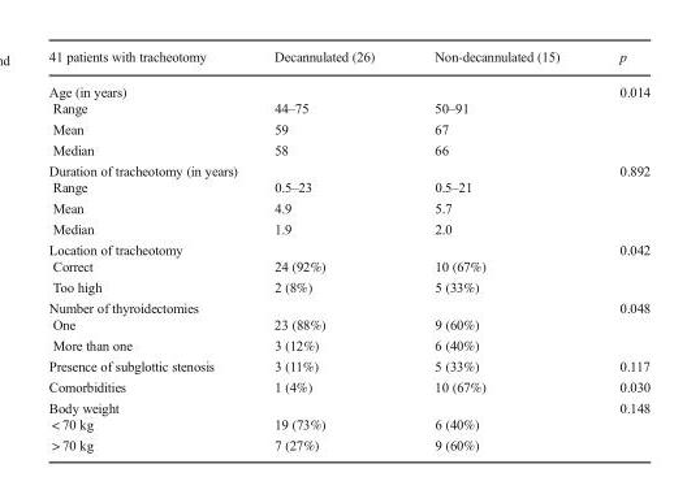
<table><thead><tr><td>41 patients with tracheotomy</td><td>Decannulated (26)</td><td>Non-decannulated (15)</td><td>p</td></tr></thead><tbody><tr><td colspan="3">Age (in years)</td><td rowspan="4">0.014</td></tr><tr><td>Range</td><td>44–75</td><td>50–91</td></tr><tr><td>Mean</td><td>59</td><td>67</td></tr><tr><td>Median</td><td>58</td><td>66</td></tr><tr><td colspan="3">Duration of tracheotomy (in years)</td><td rowspan="4">0.892</td></tr><tr><td>Range</td><td>0.5–23</td><td>0.5–21</td></tr><tr><td>Mean</td><td>4.9</td><td>5.7</td></tr><tr><td>Median</td><td>1.9</td><td>2.0</td></tr><tr><td colspan="3">Location of tracheotomy</td><td rowspan="3">0.042</td></tr><tr><td>Correct</td><td>24 (92%)</td><td>10 (67%)</td></tr><tr><td>Too high</td><td>2 (8%)</td><td>5 (33%)</td></tr><tr><td colspan="3">Number of thyroidectomies</td><td rowspan="3">0.048</td></tr><tr><td>One</td><td>23 (88%)</td><td>9 (60%)</td></tr><tr><td>More than one</td><td>3 (12%)</td><td>6 (40%)</td></tr><tr><td>Presence of subglottic stenosis</td><td>3 (11%)</td><td>5 (33%)</td><td>0.117</td></tr><tr><td>Comorbidities</td><td>1 (4%)</td><td>10 (67%)</td><td>0.030</td></tr><tr><td colspan="3">Body weight</td><td rowspan="3">0.148</td></tr><tr><td>&lt; 70 kg</td><td>19 (73%)</td><td>6 (40%)</td></tr><tr><td>&gt; 70 kg</td><td>7 (27%)</td><td>9 (60%)</td></tr></tbody></table>